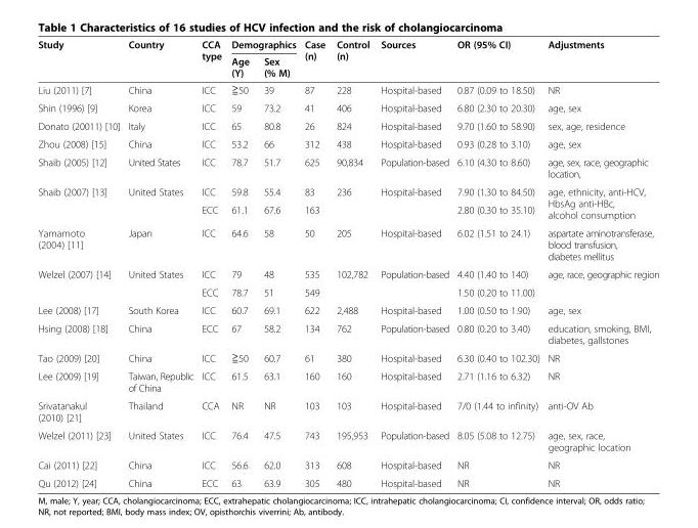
<table><thead><tr><td rowspan="2">Study</td><td rowspan="2">Country</td><td rowspan="2">CCA type</td><td colspan="2">Demographics</td><td rowspan="2">Case (n)</td><td rowspan="2">Control (n)</td><td rowspan="2">Sources</td><td rowspan="2">OR (95% CI)</td><td rowspan="2">Adjustments</td></tr><tr><td>Age (Y)</td><td>Sex (% M)</td></tr></thead><tbody><tr><td>Liu (2011) [7]</td><td>China</td><td>ICC</td><td>≧50</td><td>39</td><td>87</td><td>228</td><td>Hospital-based</td><td>0.87 (0.09 to 18.50)</td><td>NR</td></tr><tr><td>Shin (1996) [9]</td><td>Korea</td><td>ICC</td><td>59</td><td>73.2</td><td>41</td><td>406</td><td>Hospital-based</td><td>6.80 (2.30 to 20.30)</td><td>age, sex</td></tr><tr><td>Donato (20011) [10]</td><td>Italy</td><td>ICC</td><td>65</td><td>80.8</td><td>26</td><td>824</td><td>Hospital-based</td><td>9.70 (1.60 to 58.90)</td><td>sex, age, residence</td></tr><tr><td>Zhou (2008) [15]</td><td>China</td><td>ICC</td><td>53.2</td><td>66</td><td>312</td><td>438</td><td>Hospital-based</td><td>0.93 (0.28 to 3.10)</td><td>age, sex</td></tr><tr><td>Shaib (2005) [12]</td><td>United States</td><td>ICC</td><td>78.7</td><td>51.7</td><td>625</td><td>90,834</td><td>Population-based</td><td>6.10 (4.30 to 8.60)</td><td>age, sex, race, geographic location,</td></tr><tr><td rowspan="2">Shaib (2007) [13]</td><td rowspan="2">United States</td><td>ICC</td><td>59.8</td><td>55.4</td><td>83</td><td rowspan="2">236</td><td rowspan="2">Hospital-based</td><td>7.90 (1.30 to 84.50)</td><td rowspan="2">age, ethnicity, anti-HCV, HbsAg anti-HBc, alcohol consumption</td></tr><tr><td>ECC</td><td>61.1</td><td>67.6</td><td>163</td><td>2.80 (0.30 to 35.10)</td></tr><tr><td>Yamamoto (2004) [11]</td><td>Japan</td><td>ICC</td><td>64.6</td><td>58</td><td>50</td><td>205</td><td>Hospital-based</td><td>6.02 (1.51 to 24.1)</td><td>aspartate aminotransferase, blood transfusion, diabetes mellitus</td></tr><tr><td rowspan="2">Welzel (2007) [14]</td><td rowspan="2">United States</td><td>ICC</td><td>79</td><td>48</td><td>535</td><td rowspan="2">102,782</td><td rowspan="2">Population-based</td><td>4.40 (1.40 to 140)</td><td rowspan="2">age, race, geographic region</td></tr><tr><td>ECC</td><td>78.7</td><td>51</td><td>549</td><td>1.50 (0.20 to 11.00)</td></tr><tr><td>Lee (2008) [17]</td><td>South Korea</td><td>ICC</td><td>60.7</td><td>69.1</td><td>622</td><td>2,488</td><td>Hospital-based</td><td>1.00 (0.50 to 1.90)</td><td>age, sex</td></tr><tr><td>Hsing (2008) [18]</td><td>China</td><td>ECC</td><td>67</td><td>58.2</td><td>134</td><td>762</td><td>Population-based</td><td>0.80 (0.20 to 3.40)</td><td>education, smoking, BMI, diabetes, gallstones</td></tr><tr><td>Tao (2009) [20]</td><td>China</td><td>ICC</td><td>≧50</td><td>60.7</td><td>61</td><td>380</td><td>Hospital-based</td><td>6.30 (0.40 to 102.30)</td><td>NR</td></tr><tr><td>Lee (2009) [19]</td><td>Taiwan, Republic of China</td><td>ICC</td><td>61.5</td><td>63.1</td><td>160</td><td>160</td><td>Hospital-based</td><td>2.71 (1.16 to 6.32)</td><td>NR</td></tr><tr><td>Srivatanakul (2010) [21]</td><td>Thailand</td><td>CCA</td><td>NR</td><td>NR</td><td>103</td><td>103</td><td>Hospital-based</td><td>7/0 (1.44 to infinity)</td><td>anti-OV Ab</td></tr><tr><td>Welzel (2011) [23]</td><td>United States</td><td>ICC</td><td>76.4</td><td>47.5</td><td>743</td><td>195,953</td><td>Population-based</td><td>8.05 (5.08 to 12.75)</td><td>age, sex, race, geographic location</td></tr><tr><td>Cai (2011) [22]</td><td>China</td><td>ICC</td><td>56.6</td><td>62.0</td><td>313</td><td>608</td><td>Hospital-based</td><td>NR</td><td>NR</td></tr><tr><td>Qu (2012) [24]</td><td>China</td><td>ECC</td><td>63</td><td>63.9</td><td>305</td><td>480</td><td>Hospital-based</td><td>NR</td><td>NR</td></tr></tbody></table>